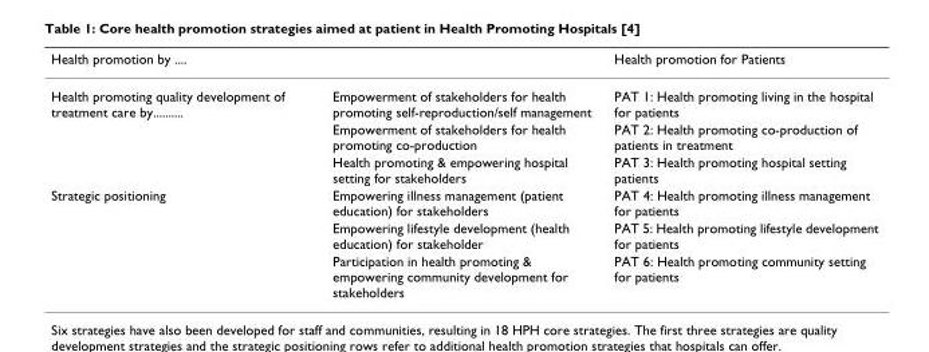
<table><thead><tr><td>Health promotion by ....</td><td></td><td>Health promotion for Patients</td></tr></thead><tbody><tr><td rowspan="3">Health promoting quality development of treatment care by..........</td><td>Empowerment of stakeholders for health promoting self-reproduction/self management</td><td>PAT 1: Health promoting living in the hospital for patients</td></tr><tr><td>Empowerment of stakeholders for health promoting co-production</td><td>PAT 2: Health promoting co-production of patients in treatment</td></tr><tr><td>Health promoting &amp; empowering hospital setting for stakeholders</td><td>PAT 3: Health promoting hospital setting patients</td></tr><tr><td rowspan="3">Strategic positioning</td><td>Empowering illness management (patient education) for stakeholders</td><td>PAT 4: Health promoting illness management for patients</td></tr><tr><td>Empowering lifestyle development (health education) for stakeholder</td><td>PAT 5: Health promoting lifestyle development for patients</td></tr><tr><td>Participation in health promoting &amp; empowering community development for stakeholders</td><td>PAT 6: Health promoting community setting for patients</td></tr></tbody></table>